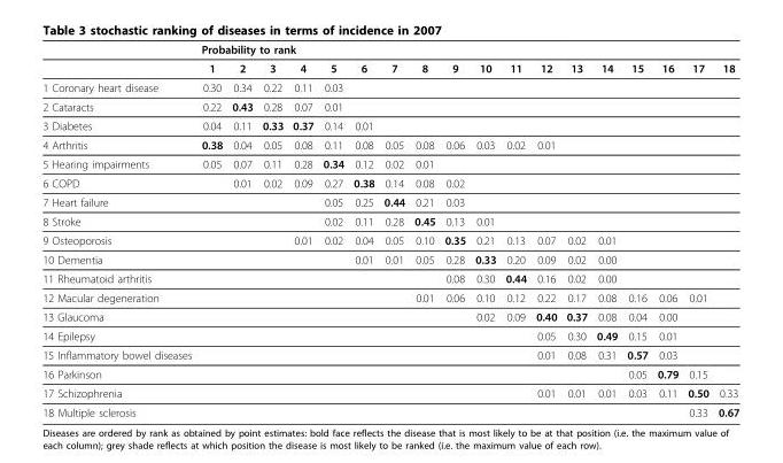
<table><thead><tr><td rowspan="2"></td><td colspan="18">Probability to rank</td></tr><tr><td>1</td><td>2</td><td>3</td><td>4</td><td>5</td><td>6</td><td>7</td><td>8</td><td>9</td><td>10</td><td>11</td><td>12</td><td>13</td><td>14</td><td>15</td><td>16</td><td>17</td><td>18</td></tr></thead><tbody><tr><td>1 Coronary heart disease</td><td>0.30</td><td>0.34</td><td>0.22</td><td>0.11</td><td>0.03</td><td></td><td></td><td></td><td></td><td></td><td></td><td></td><td></td><td></td><td></td><td></td><td></td><td></td></tr><tr><td>2 Cataracts</td><td>0.22</td><td>0.43</td><td>0.28</td><td>0.07</td><td>0.01</td><td></td><td></td><td></td><td></td><td></td><td></td><td></td><td></td><td></td><td></td><td></td><td></td><td></td></tr><tr><td>3 Diabetes</td><td>0.04</td><td>0.11</td><td>0.33</td><td>0.37</td><td>0.14</td><td>0.01</td><td></td><td></td><td></td><td></td><td></td><td></td><td></td><td></td><td></td><td></td><td></td><td></td></tr><tr><td>4 Arthritis</td><td>0.38</td><td>0.04</td><td>0.05</td><td>0.08</td><td>0.11</td><td>0.08</td><td>0.05</td><td>0.08</td><td>0.06</td><td>0.03</td><td>0.02</td><td>0.01</td><td></td><td></td><td></td><td></td><td></td><td></td></tr><tr><td>5 Hearing impairments</td><td>0.05</td><td>0.07</td><td>0.11</td><td>0.28</td><td>0.34</td><td>0.12</td><td>0.02</td><td>0.01</td><td></td><td></td><td></td><td></td><td></td><td></td><td></td><td></td><td></td><td></td></tr><tr><td>6 COPD</td><td></td><td>0.01</td><td>0.02</td><td>0.09</td><td>0.27</td><td>0.38</td><td>0.14</td><td>0.08</td><td>0.02</td><td></td><td></td><td></td><td></td><td></td><td></td><td></td><td></td><td></td></tr><tr><td>7 Heart failure</td><td></td><td></td><td></td><td></td><td>0.05</td><td>0.25</td><td>0.44</td><td>0.21</td><td>0.03</td><td></td><td></td><td></td><td></td><td></td><td></td><td></td><td></td><td></td></tr><tr><td>8 Stroke</td><td></td><td></td><td></td><td></td><td>0.02</td><td>0.11</td><td>0.28</td><td>0.45</td><td>0.13</td><td>0.01</td><td></td><td></td><td></td><td></td><td></td><td></td><td></td><td></td></tr><tr><td>9 Osteoporosis</td><td></td><td></td><td></td><td>0.01</td><td>0.02</td><td>0.04</td><td>0.05</td><td>0.10</td><td>0.35</td><td>0.21</td><td>0.13</td><td>0.07</td><td>0.02</td><td>0.01</td><td></td><td></td><td></td><td></td></tr><tr><td>10 Dementia</td><td></td><td></td><td></td><td></td><td></td><td>0.01</td><td>0.01</td><td>0.05</td><td>0.28</td><td>0.33</td><td>0.20</td><td>0.09</td><td>0.02</td><td>0.00</td><td></td><td></td><td></td><td></td></tr><tr><td>11 Rheumatoid arthritis</td><td></td><td></td><td></td><td></td><td></td><td></td><td></td><td></td><td>0.08</td><td>0.30</td><td>0.44</td><td>0.16</td><td>0.02</td><td>0.00</td><td></td><td></td><td></td><td></td></tr><tr><td>12 Macular degeneration</td><td></td><td></td><td></td><td></td><td></td><td></td><td></td><td>0.01</td><td>0.06</td><td>0.10</td><td>0.12</td><td>0.22</td><td>0.17</td><td>0.08</td><td>0.16</td><td>0.06</td><td>0.01</td><td></td></tr><tr><td>13 Glaucoma</td><td></td><td></td><td></td><td></td><td></td><td></td><td></td><td></td><td></td><td>0.02</td><td>0.09</td><td>0.40</td><td>0.37</td><td>0.08</td><td>0.04</td><td>0.00</td><td></td><td></td></tr><tr><td>14 Epilepsy</td><td></td><td></td><td></td><td></td><td></td><td></td><td></td><td></td><td></td><td></td><td></td><td>0.05</td><td>0.30</td><td>0.49</td><td>0.15</td><td>0.01</td><td></td><td></td></tr><tr><td>15 Inflammatory bowel diseases</td><td></td><td></td><td></td><td></td><td></td><td></td><td></td><td></td><td></td><td></td><td></td><td>0.01</td><td>0.08</td><td>0.31</td><td>0.57</td><td>0.03</td><td></td><td></td></tr><tr><td>16 Parkinson</td><td></td><td></td><td></td><td></td><td></td><td></td><td></td><td></td><td></td><td></td><td></td><td></td><td></td><td></td><td>0.05</td><td>0.79</td><td>0.15</td><td></td></tr><tr><td>17 Schizophrenia</td><td></td><td></td><td></td><td></td><td></td><td></td><td></td><td></td><td></td><td></td><td></td><td>0.01</td><td>0.01</td><td>0.01</td><td>0.03</td><td>0.11</td><td>0.50</td><td>0.33</td></tr><tr><td>18 Multiple sclerosis</td><td></td><td></td><td></td><td></td><td></td><td></td><td></td><td></td><td></td><td></td><td></td><td></td><td></td><td></td><td></td><td></td><td>0.33</td><td>0.67</td></tr></tbody></table>